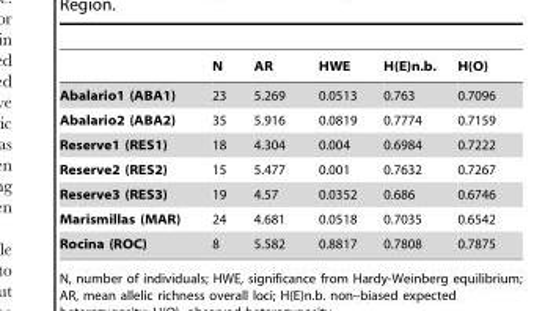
<table><thead><tr><td></td><td>N</td><td>AR</td><td>HWE</td><td>H(E)n.b.</td><td>H(O)</td></tr></thead><tbody><tr><td>Abalario1 (ABA1)</td><td>23</td><td>5.269</td><td>0.0513</td><td>0.763</td><td>0.7096</td></tr><tr><td>Abalario2 (ABA2)</td><td>35</td><td>5.916</td><td>0.0819</td><td>0.7774</td><td>0.7159</td></tr><tr><td>Reserve1 (RES1)</td><td>18</td><td>4.304</td><td>0.004</td><td>0.6984</td><td>0.7222</td></tr><tr><td>Reserve2 (RES2)</td><td>15</td><td>5.477</td><td>0.001</td><td>0.7632</td><td>0.7267</td></tr><tr><td>Reserve3 (RES3)</td><td>19</td><td>4.57</td><td>0.0352</td><td>0.686</td><td>0.6746</td></tr><tr><td>Marismillas (MAR)</td><td>24</td><td>4.681</td><td>0.0518</td><td>0.7035</td><td>0.6542</td></tr><tr><td>Rocina (ROC)</td><td>8</td><td>5.582</td><td>0.8817</td><td>0.7808</td><td>0.7875</td></tr></tbody></table>